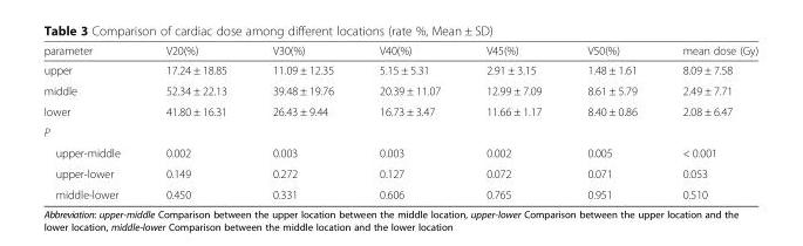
<table><thead><tr><td>parameter</td><td>V20(%)</td><td>V30(%)</td><td>V40(%)</td><td>V45(%)</td><td>V50(%)</td><td>mean dose (Gy)</td></tr></thead><tbody><tr><td>upper</td><td>17.24 ± 18.85</td><td>11.09 ± 12.35</td><td>5.15 ± 5.31</td><td>2.91 ± 3.15</td><td>1.48 ± 1.61</td><td>8.09 ± 7.58</td></tr><tr><td>middle</td><td>52.34 ± 22.13</td><td>39.48 ± 19.76</td><td>20.39 ± 11.07</td><td>12.99 ± 7.09</td><td>8.61 ± 5.79</td><td>2.49 ± 7.71</td></tr><tr><td>lower</td><td>41.80 ± 16.31</td><td>26.43 ± 9.44</td><td>16.73 ± 3.47</td><td>11.66 ± 1.17</td><td>8.40 ± 0.86</td><td>2.08 ± 6.47</td></tr><tr><td colspan="7">P</td></tr><tr><td>upper-middle</td><td>0.002</td><td>0.003</td><td>0.003</td><td>0.002</td><td>0.005</td><td>&lt; 0.001</td></tr><tr><td>upper-lower</td><td>0.149</td><td>0.272</td><td>0.127</td><td>0.072</td><td>0.071</td><td>0.053</td></tr><tr><td>middle-lower</td><td>0.450</td><td>0.331</td><td>0.606</td><td>0.765</td><td>0.951</td><td>0.510</td></tr></tbody></table>